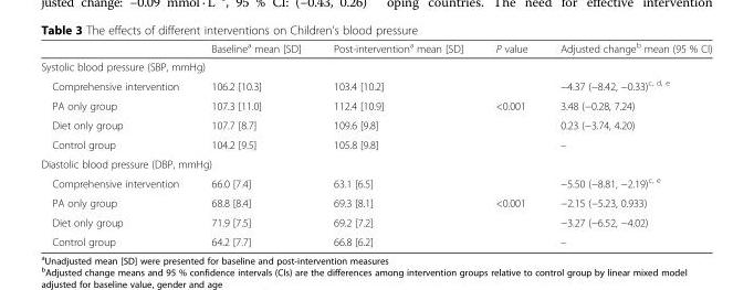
<table><thead><tr><td></td><td>Baseline<sup>a</sup> mean [SD]</td><td>Post-intervention<sup>a</sup> mean [SD]</td><td>P value</td><td>Adjusted change<sup>b</sup> mean (95 % CI)</td></tr></thead><tbody><tr><td colspan="5">Systolic blood pressure (SBP, mmHg)</td></tr><tr><td>Comprehensive intervention</td><td>106.2 [10.3]</td><td>103.4 [10.2]</td><td></td><td>−4.37 (−8.42, −0.33)<sup>c, d, e</sup></td></tr><tr><td>PA only group</td><td>107.3 [11.0]</td><td>112.4 [10.9]</td><td>&lt;0.001</td><td>3.48 (−0.28, 7.24)</td></tr><tr><td>Diet only group</td><td>107.7 [8.7]</td><td>109.6 [9.8]</td><td></td><td>0.23 (−3.74, 4.20)</td></tr><tr><td>Control group</td><td>104.2 [9.5]</td><td>105.8 [9.8]</td><td></td><td>–</td></tr><tr><td colspan="5">Diastolic blood pressure (DBP, mmHg)</td></tr><tr><td>Comprehensive intervention</td><td>66.0 [7.4]</td><td>63.1 [6.5]</td><td></td><td>−5.50 (−8.81, −2.19)<sup>c, e</sup></td></tr><tr><td>PA only group</td><td>68.8 [8.4]</td><td>69.3 [8.1]</td><td>&lt;0.001</td><td>−2.15 (−5.23, 0.933)</td></tr><tr><td>Diet only group</td><td>71.9 [7.5]</td><td>69.2 [7.2]</td><td></td><td>−3.27 (−6.52, −4.02)</td></tr><tr><td>Control group</td><td>64.2 [7.7]</td><td>66.8 [6.2]</td><td></td><td>–</td></tr></tbody></table>